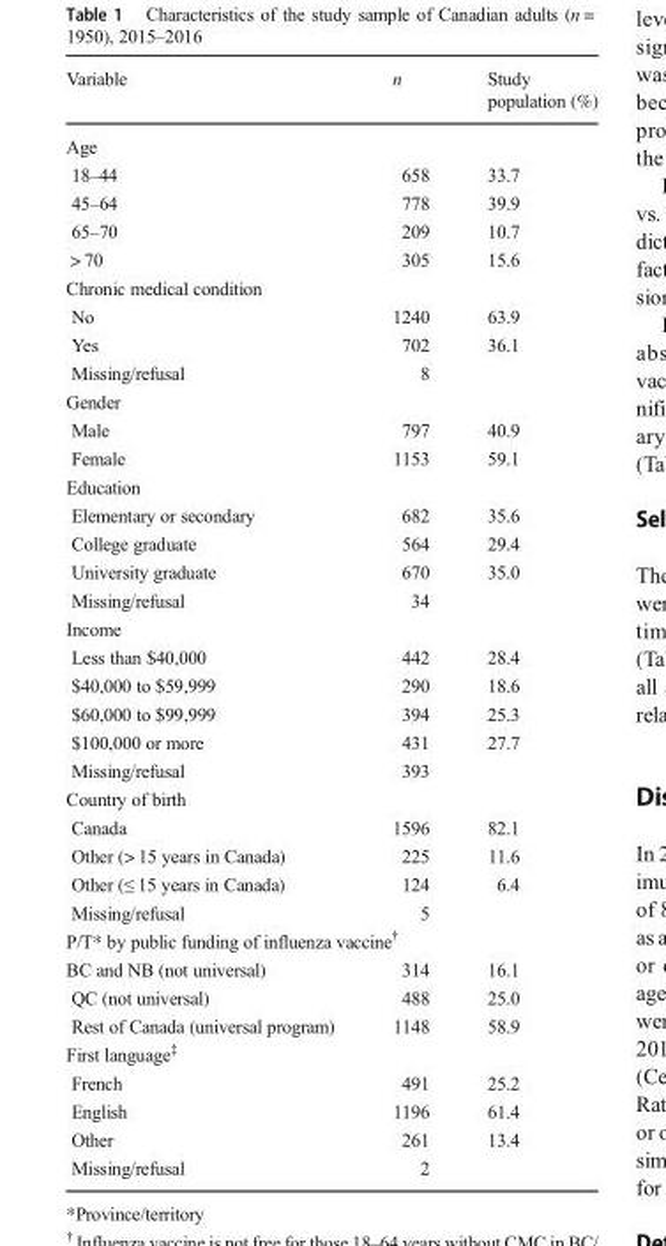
<table><thead><tr><td>Variable</td><td>n</td><td>Study population (%)</td></tr></thead><tbody><tr><td colspan="3">Age</td></tr><tr><td>18–44</td><td>658</td><td>33.7</td></tr><tr><td>45–64</td><td>778</td><td>39.9</td></tr><tr><td>65–70</td><td>209</td><td>10.7</td></tr><tr><td>&gt; 70</td><td>305</td><td>15.6</td></tr><tr><td colspan="3">Chronic medical condition</td></tr><tr><td>No</td><td>1240</td><td>63.9</td></tr><tr><td>Yes</td><td>702</td><td>36.1</td></tr><tr><td>Missing/refusal</td><td>8</td><td></td></tr><tr><td colspan="3">Gender</td></tr><tr><td>Male</td><td>797</td><td>40.9</td></tr><tr><td>Female</td><td>1153</td><td>59.1</td></tr><tr><td colspan="3">Education</td></tr><tr><td>Elementary or secondary</td><td>682</td><td>35.6</td></tr><tr><td>College graduate</td><td>564</td><td>29.4</td></tr><tr><td>University graduate</td><td>670</td><td>35.0</td></tr><tr><td>Missing/refusal</td><td>34</td><td></td></tr><tr><td colspan="3">Income</td></tr><tr><td>Less than $40,000</td><td>442</td><td>28.4</td></tr><tr><td>$40,000 to $59,999</td><td>290</td><td>18.6</td></tr><tr><td>$60,000 to $99,999</td><td>394</td><td>25.3</td></tr><tr><td>$100,000 or more</td><td>431</td><td>27.7</td></tr><tr><td>Missing/refusal</td><td>393</td><td></td></tr><tr><td colspan="3">Country of birth</td></tr><tr><td>Canada</td><td>1596</td><td>82.1</td></tr><tr><td>Other (&gt; 15 years in Canada)</td><td>225</td><td>11.6</td></tr><tr><td>Other (≤ 15 years in Canada)</td><td>124</td><td>6.4</td></tr><tr><td>Missing/refusal</td><td>5</td><td></td></tr><tr><td colspan="3">P/T* by public funding of influenza vaccine<sup>†</sup></td></tr><tr><td>BC and NB (not universal)</td><td>314</td><td>16.1</td></tr><tr><td>QC (not universal)</td><td>488</td><td>25.0</td></tr><tr><td>Rest of Canada (universal program)</td><td>1148</td><td>58.9</td></tr><tr><td colspan="3">First language<sup>‡</sup></td></tr><tr><td>French</td><td>491</td><td>25.2</td></tr><tr><td>English</td><td>1196</td><td>61.4</td></tr><tr><td>Other</td><td>261</td><td>13.4</td></tr><tr><td>Missing/refusal</td><td>2</td><td></td></tr></tbody></table>